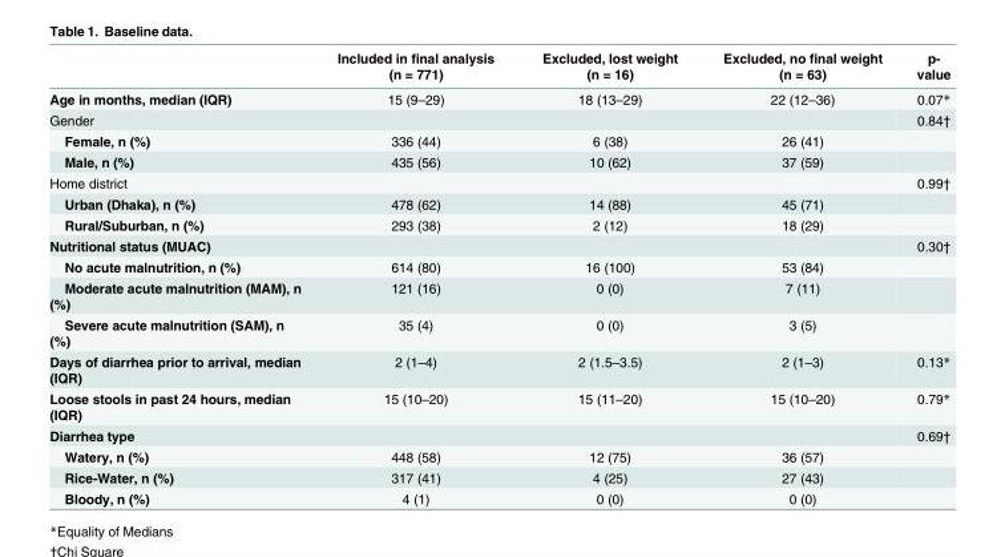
<table><thead><tr><td></td><td>Included in final analysis (n = 771)</td><td>Excluded, lost weight (n = 16)</td><td>Excluded, no final weight (n = 63)</td><td>p- value</td></tr></thead><tbody><tr><td>Age in months, median (IQR)</td><td>15 (9–29)</td><td>18 (13–29)</td><td>22 (12–36)</td><td>0.07*</td></tr><tr><td>Gender</td><td></td><td></td><td></td><td>0.84†</td></tr><tr><td>Female, n (%)</td><td>336 (44)</td><td>6 (38)</td><td>26 (41)</td><td></td></tr><tr><td>Male, n (%)</td><td>435 (56)</td><td>10 (62)</td><td>37 (59)</td><td></td></tr><tr><td>Home district</td><td></td><td></td><td></td><td>0.99†</td></tr><tr><td>Urban (Dhaka), n (%)</td><td>478 (62)</td><td>14 (88)</td><td>45 (71)</td><td></td></tr><tr><td>Rural/Suburban, n (%)</td><td>293 (38)</td><td>2 (12)</td><td>18 (29)</td><td></td></tr><tr><td>Nutritional status (MUAC)</td><td></td><td></td><td></td><td>0.30†</td></tr><tr><td>No acute malnutrition, n (%)</td><td>614 (80)</td><td>16 (100)</td><td>53 (84)</td><td></td></tr><tr><td>Moderate acute malnutrition (MAM), n (%)</td><td>121 (16)</td><td>0 (0)</td><td>7 (11)</td><td></td></tr><tr><td>Severe acute malnutrition (SAM), n (%)</td><td>35 (4)</td><td>0 (0)</td><td>3 (5)</td><td></td></tr><tr><td>Days of diarrhea prior to arrival, median (IQR)</td><td>2 (1–4)</td><td>2 (1.5–3.5)</td><td>2 (1–3)</td><td>0.13*</td></tr><tr><td>Loose stools in past 24 hours, median (IQR)</td><td>15 (10–20)</td><td>15 (11–20)</td><td>15 (10–20)</td><td>0.79*</td></tr><tr><td>Diarrhea type</td><td></td><td></td><td></td><td>0.69†</td></tr><tr><td>Watery, n (%)</td><td>448 (58)</td><td>12 (75)</td><td>36 (57)</td><td></td></tr><tr><td>Rice-Water, n (%)</td><td>317 (41)</td><td>4 (25)</td><td>27 (43)</td><td></td></tr><tr><td>Bloody, n (%)</td><td>4 (1)</td><td>0 (0)</td><td>0 (0)</td><td></td></tr></tbody></table>